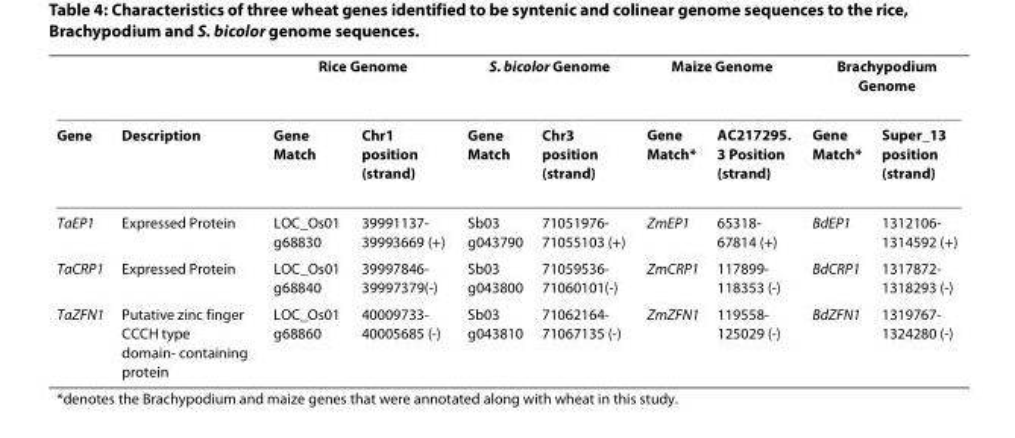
<table><thead><tr><td rowspan="2">Gene</td><td rowspan="2">Description</td><td colspan="2">Rice Genome</td><td colspan="2">S. bicolor Genome</td><td colspan="2">Maize Genome</td><td colspan="2">Brachypodium Genome</td></tr><tr><td>Gene Match</td><td>Chr1 position (strand)</td><td>Gene Match</td><td>Chr3 position (strand)</td><td>Gene Match*</td><td>AC217295. 3 Position (strand)</td><td>Gene Match*</td><td>Super_13 position (strand)</td></tr></thead><tbody><tr><td>TaEP1</td><td>Expressed Protein</td><td>LOC_Os01 g68830</td><td>39991137- 39993669 (+)</td><td>Sb03 g043790</td><td>71051976- 71055103 (+)</td><td>ZmEP1</td><td>65318- 67814 (+)</td><td>BdEP1</td><td>1312106- 1314592 (+)</td></tr><tr><td>TaCRP1</td><td>Expressed Protein</td><td>LOC_Os01 g68840</td><td>39997846- 39997379(-)</td><td>Sb03 g043800</td><td>71059536- 71060101(-)</td><td>ZmCRP1</td><td>117899- 118353 (-)</td><td>BdCRP1</td><td>1317872- 1318293 (-)</td></tr><tr><td>TaZFN1</td><td>Putative zinc finger CCCH type domain- containing protein</td><td>LOC_Os01 g68860</td><td>40009733- 40005685 (-)</td><td>Sb03 g043810</td><td>71062164- 71067135 (-)</td><td>ZmZFN1</td><td>119558- 125029 (-)</td><td>BdZFN1</td><td>1319767- 1324280 (-)</td></tr></tbody></table>